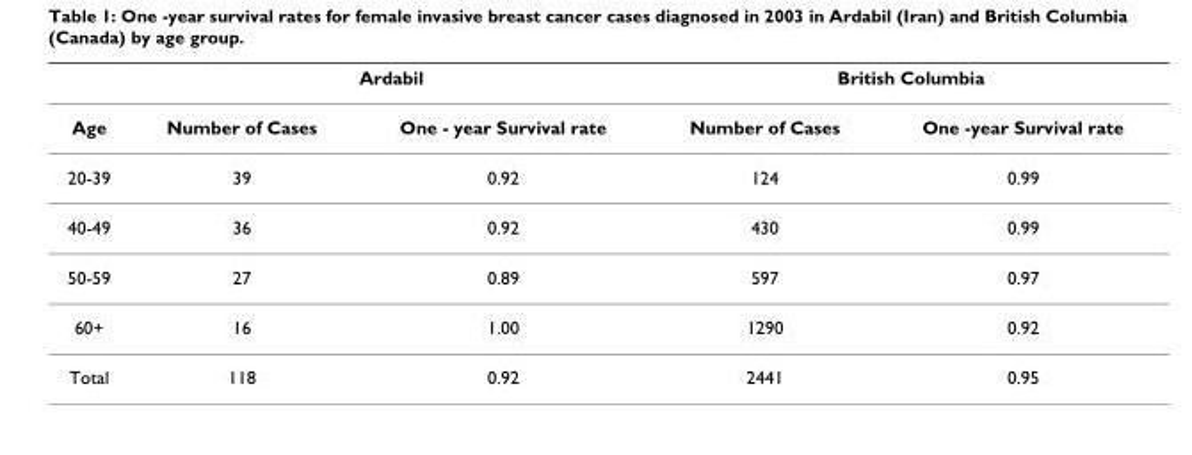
<table><thead><tr><td rowspan="2">Age</td><td colspan="2">Ardabil</td><td colspan="2">British Columbia</td></tr><tr><td>Number of Cases</td><td>One - year Survival rate</td><td>Number of Cases</td><td>One -year Survival rate</td></tr></thead><tbody><tr><td>20-39</td><td>39</td><td>0.92</td><td>124</td><td>0.99</td></tr><tr><td>40-49</td><td>36</td><td>0.92</td><td>430</td><td>0.99</td></tr><tr><td>50-59</td><td>27</td><td>0.89</td><td>597</td><td>0.97</td></tr><tr><td>60+</td><td>16</td><td>1.00</td><td>1290</td><td>0.92</td></tr><tr><td>Total</td><td>118</td><td>0.92</td><td>2441</td><td>0.95</td></tr></tbody></table>